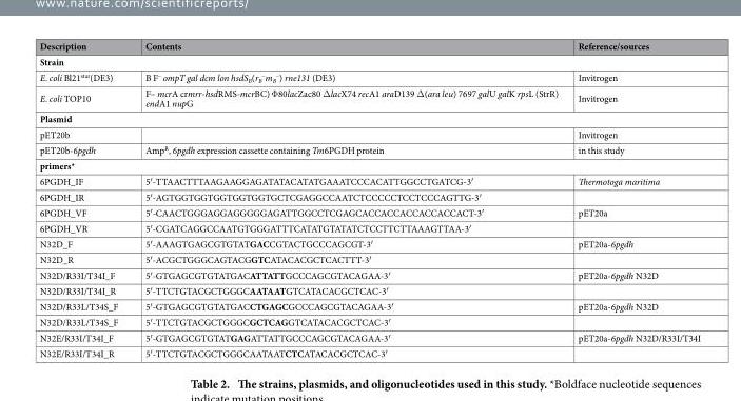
<table><thead><tr><td>Description</td><td>Contents</td><td>Reference/sources</td></tr></thead><tbody><tr><td colspan="3">Strain</td></tr><tr><td>E. coli Bl21<sup>star</sup>(DE3)</td><td>B F<sup>–</sup> ompT gal dcm lon hsdS<sub>B</sub>(r<sub>B</sub> <sup>–</sup>m<sub>B</sub> <sup>–</sup>) rne131 (DE3)</td><td>Invitrogen</td></tr><tr><td>E. coli TOP10</td><td>F– mcrA crmrr-hsdRMS-mcrBC) Φ 80lacZac80 Δ lacX74 recA1 araD139 Δ (ara leu) 7697 galU galK rpsL (StrR) endA1 nupG</td><td>Invitrogen</td></tr><tr><td colspan="3">Plasmid</td></tr><tr><td>pET20b</td><td></td><td>Invitrogen</td></tr><tr><td>pET20b-6pgdh</td><td>Amp<sup>R</sup>, 6pgdh expression cassette containing Tm6PGDH protein</td><td>in this study</td></tr><tr><td colspan="3">primers*</td></tr><tr><td>6PGDH_IF</td><td>5′ -TTAACTTTAAGAAGGAGATATACATATGAAATCCCACATTGGCCTGATCG-3′</td><td>Thermotoga maritima</td></tr><tr><td>6PGDH_IR</td><td>5′ -AGTGGTGGTGGTGGTGGTGCTCGAGGCCAATCTCCCCCTCCTCCCAGTTG-3′</td><td></td></tr><tr><td>6PGDH_VF</td><td>5′ -CAACTGGGAGGAGGGGGAGATTGGCCTCGAGCACCACCACCACCACCACT-3′</td><td>pET20a</td></tr><tr><td>6PGDH_VR</td><td>5′ -CGATCAGGCCAATGTGGGATTTCATATGTATATCTCCTTCTTAAAGTTAA-3′</td><td></td></tr><tr><td>N32D_F</td><td>5′ -AAAGTGAGCGTGTATGACCGTACTGCCCAGCGT-3′</td><td>pET20a-6pgdh</td></tr><tr><td>N32D_R</td><td>5′ -ACGCTGGGCAGTACGGTCATACACGCTCACTTT-3′</td><td></td></tr><tr><td>N32D/R33I/T34I_F</td><td>5′ -GTGAGCGTGTATGACATTATTGCCCAGCGTACAGAA-3′</td><td>pET20a-6pgdh N32D</td></tr><tr><td>N32D/R33I/T34I_R</td><td>5′ -TTCTGTACGCTGGGCAATAATGTCATACACGCTCAC-3′</td><td></td></tr><tr><td>N32D/R33L/T34S_F</td><td>5′ -GTGAGCGTGTATGACCTGAGCGCCCAGCGTACAGAA-3′</td><td>pET20a-6pgdh N32D</td></tr><tr><td>N32D/R33L/T34S_F</td><td>5′ -TTCTGTACGCTGGGCGCTCAGGTCATACACGCTCAC-3′</td><td></td></tr><tr><td>N32E/R33I/T34I_F</td><td>5′ -GTGAGCGTGTATGAGATTATTGCCCAGCGTACAGAA-3′</td><td>pET20a-6pgdh N32D/R33I/T34I</td></tr><tr><td>N32E/R33I/T34I_R</td><td>5′ -TTCTGTACGCTGGGCAATAATCTCATACACGCTCAC-3′</td><td></td></tr></tbody></table>